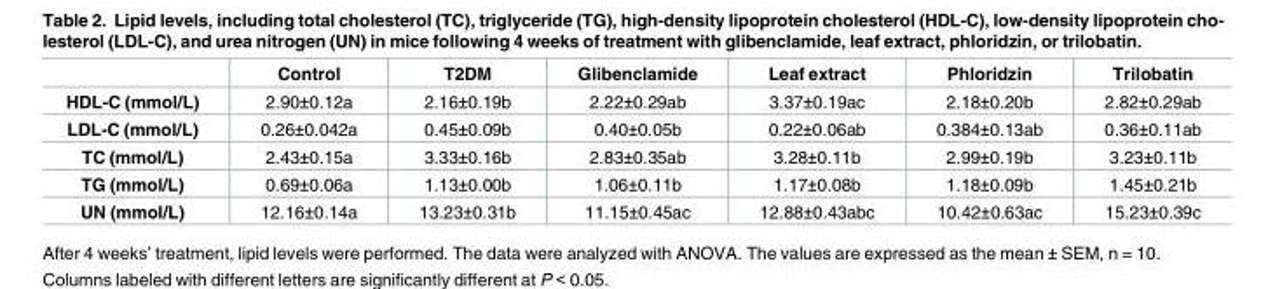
<table><thead><tr><td></td><td>Control</td><td>T2DM</td><td>Glibenclamide</td><td>Leaf extract</td><td>Phloridzin</td><td>Trilobatin</td></tr></thead><tbody><tr><td>HDL-C (mmol/L)</td><td>2.90±0.12a</td><td>2.16±0.19b</td><td>2.22±0.29ab</td><td>3.37±0.19ac</td><td>2.18±0.20b</td><td>2.82±0.29ab</td></tr><tr><td>LDL-C (mmol/L)</td><td>0.26±0.042a</td><td>0.45±0.09b</td><td>0.40±0.05b</td><td>0.22±0.06ab</td><td>0.384±0.13ab</td><td>0.36±0.11ab</td></tr><tr><td>TC (mmol/L)</td><td>2.43±0.15a</td><td>3.33±0.16b</td><td>2.83±0.35ab</td><td>3.28±0.11b</td><td>2.99±0.19b</td><td>3.23±0.11b</td></tr><tr><td>TG (mmol/L)</td><td>0.69±0.06a</td><td>1.13±0.00b</td><td>1.06±0.11b</td><td>1.17±0.08b</td><td>1.18±0.09b</td><td>1.45±0.21b</td></tr><tr><td>UN (mmol/L)</td><td>12.16±0.14a</td><td>13.23±0.31b</td><td>11.15±0.45ac</td><td>12.88±0.43abc</td><td>10.42±0.63ac</td><td>15.23±0.39c</td></tr></tbody></table>